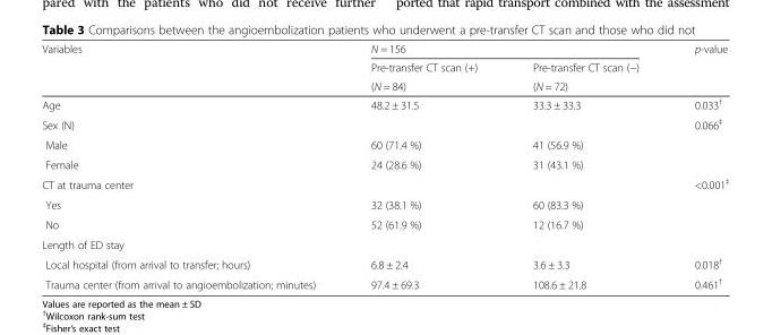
<table><thead><tr><td rowspan="3">Variables</td><td colspan="2">N = 156</td><td rowspan="3">p-value</td></tr><tr><td rowspan="2">Pre-transfer CT scan (+) (N = 84)</td><td rowspan="2">Pre-transfer CT scan (−) (N = 72)</td></tr><tr></tr></thead><tbody><tr><td>Age</td><td>48.2 ± 31.5</td><td>33.3 ± 33.3</td><td>0.033<sup>†</sup></td></tr><tr><td>Sex (N)</td><td></td><td></td><td>0.066<sup>‡</sup></td></tr><tr><td>Male</td><td>60 (71.4 %)</td><td>41 (56.9 %)</td><td></td></tr><tr><td>Female</td><td>24 (28.6 %)</td><td>31 (43.1 %)</td><td></td></tr><tr><td>CT at trauma center</td><td></td><td></td><td>&lt;0.001<sup>‡</sup></td></tr><tr><td>Yes</td><td>32 (38.1 %)</td><td>60 (83.3 %)</td><td></td></tr><tr><td>No</td><td>52 (61.9 %)</td><td>12 (16.7 %)</td><td></td></tr><tr><td colspan="4">Length of ED stay</td></tr><tr><td>Local hospital (from arrival to transfer; hours)</td><td>6.8 ± 2.4</td><td>3.6 ± 3.3</td><td>0.018<sup>†</sup></td></tr><tr><td>Trauma center (from arrival to angioembolization; minutes)</td><td>97.4 ± 69.3</td><td>108.6 ± 21.8</td><td>0.461<sup>†</sup></td></tr></tbody></table>